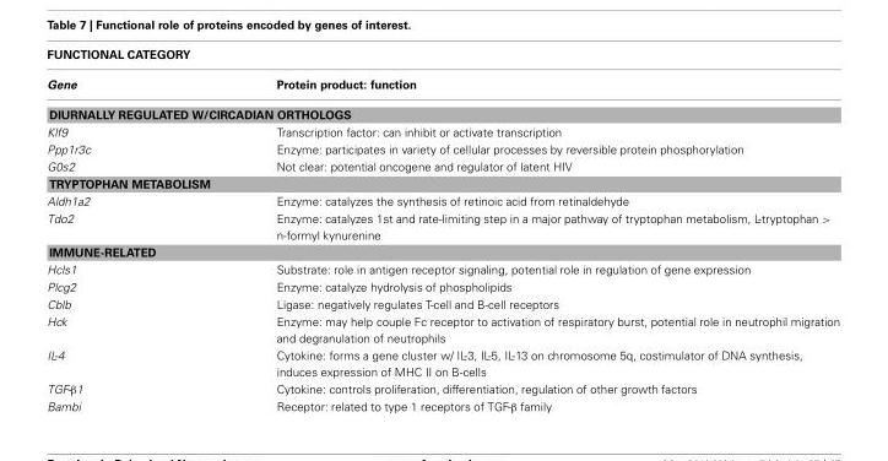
<table><thead><tr><td colspan="2">FUNCTIONAL CATEGORY</td></tr><tr><td>Gene</td><td>Protein product: function</td></tr></thead><tbody><tr><td colspan="2">DIURNALLY REGULATED W/CIRCADIAN ORTHOLOGS</td></tr><tr><td>Klf9</td><td>Transcription factor: can inhibit or activate transcription</td></tr><tr><td>Ppp1r3c</td><td>Enzyme: participates in variety of cellular processes by reversible protein phosphorylation</td></tr><tr><td>G0s2</td><td>Not clear: potential oncogene and regulator of latent HIV</td></tr><tr><td colspan="2">TRYPTOPHAN METABOLISM</td></tr><tr><td>Aldh1a2</td><td>Enzyme: catalyzes the synthesis of retinoic acid from retinaldehyde</td></tr><tr><td>Tdo2</td><td>Enzyme: catalyzes 1st and rate-limiting step in a major pathway of tryptophan metabolism, L-tryptophan &gt; n-formyl kynurenine</td></tr><tr><td colspan="2">IMMUNE-RELATED</td></tr><tr><td>Hcls1</td><td>Substrate: role in antigen receptor signaling, potential role in regulation of gene expression</td></tr><tr><td>Plcg2</td><td>Enzyme: catalyze hydrolysis of phospholipids</td></tr><tr><td>Cblb</td><td>Ligase: negatively regulates T-cell and B-cell receptors</td></tr><tr><td>Hck</td><td>Enzyme: may help couple Fc receptor to activation of respiratory burst, potential role in neutrophil migration and degranulation of neutrophils</td></tr><tr><td>IL-4</td><td>Cytokine: forms a gene cluster w/ IL-3, IL-5, IL-13 on chromosome 5q, costimulator of DNA synthesis, induces expression of MHC II on B-cells</td></tr><tr><td>TGF-β1</td><td>Cytokine: controls proliferation, differentiation, regulation of other growth factors</td></tr><tr><td>Bambi</td><td>Receptor: related to type 1 receptors of TGF-β family</td></tr></tbody></table>